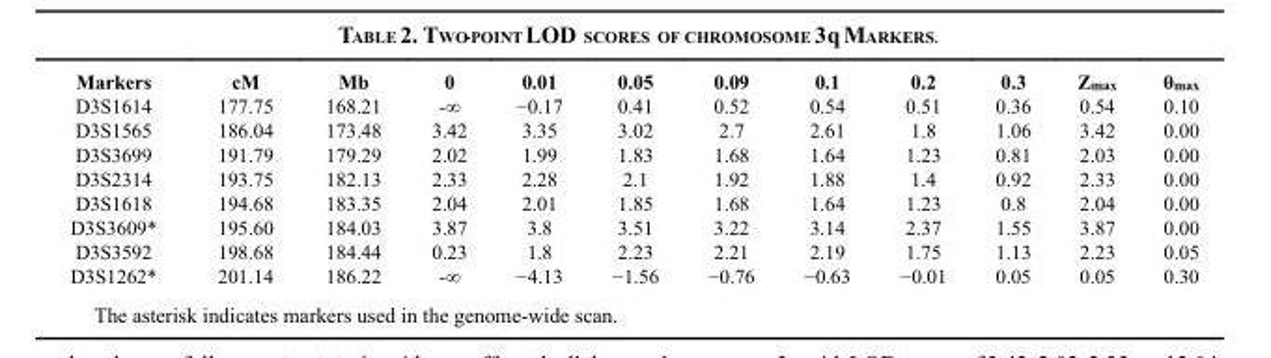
<table><thead><tr><td>Markers</td><td>cM</td><td>Mb</td><td>0</td><td>0.01</td><td>0.05</td><td>0.09</td><td>0.1</td><td>0.2</td><td>0.3</td><td>Z<sub>max</sub></td><td>θ<sub>max</sub></td></tr></thead><tbody><tr><td>D3S1614</td><td>177.75</td><td>168.21</td><td>-∞</td><td>−0.17</td><td>0.41</td><td>0.52</td><td>0.54</td><td>0.51</td><td>0.36</td><td>0.54</td><td>0.10</td></tr><tr><td>D3S1565</td><td>186.04</td><td>173.48</td><td>3.42</td><td>3.35</td><td>3.02</td><td>2.7</td><td>2.61</td><td>1.8</td><td>1.06</td><td>3.42</td><td>0.00</td></tr><tr><td>D3S3699</td><td>191.79</td><td>179.29</td><td>2.02</td><td>1.99</td><td>1.83</td><td>1.68</td><td>1.64</td><td>1.23</td><td>0.81</td><td>2.03</td><td>0.00</td></tr><tr><td>D3S2314</td><td>193.75</td><td>182.13</td><td>2.33</td><td>2.28</td><td>2.1</td><td>1.92</td><td>1.88</td><td>1.4</td><td>0.92</td><td>2.33</td><td>0.00</td></tr><tr><td>D3S1618</td><td>194.68</td><td>183.35</td><td>2.04</td><td>2.01</td><td>1.85</td><td>1.68</td><td>1.64</td><td>1.23</td><td>0.8</td><td>2.04</td><td>0.00</td></tr><tr><td>D3S3609*</td><td>195.60</td><td>184.03</td><td>3.87</td><td>3.8</td><td>3.51</td><td>3.22</td><td>3.14</td><td>2.37</td><td>1.55</td><td>3.87</td><td>0.00</td></tr><tr><td>D3S3592</td><td>198.68</td><td>184.44</td><td>0.23</td><td>1.8</td><td>2.23</td><td>2.21</td><td>2.19</td><td>1.75</td><td>1.13</td><td>2.23</td><td>0.05</td></tr><tr><td>D3S1262*</td><td>201.14</td><td>186.22</td><td>-∞</td><td>−4.13</td><td>−1.56</td><td>−0.76</td><td>−0.63</td><td>−0.01</td><td>0.05</td><td>0.05</td><td>0.30</td></tr></tbody></table>